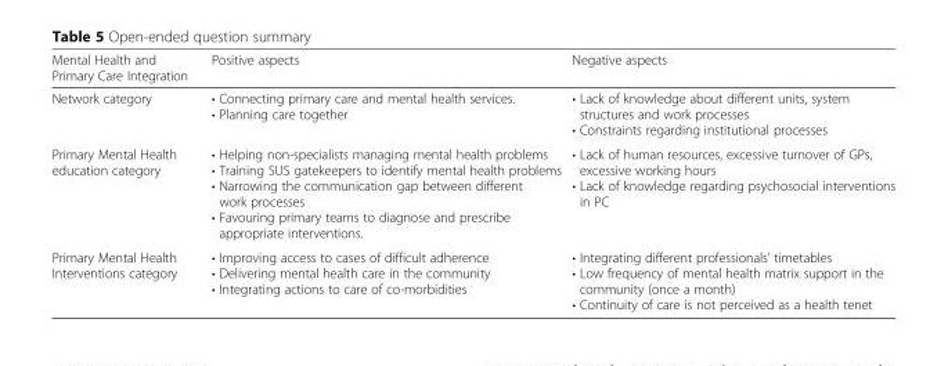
<table><thead><tr><td>Mental Health and Primary Care Integration</td><td>Positive aspects</td><td>Negative aspects</td></tr></thead><tbody><tr><td>Network category</td><td>• Connecting primary care and mental health services. • Planning care together</td><td>• Lack of knowledge about different units, system structures and work processes • Constraints regarding institutional processes</td></tr><tr><td>Primary Mental Health education category</td><td>• Helping non-specialists managing mental health problems • Training SUS gatekeepers to identify mental health problems • Narrowing the communication gap between different work processes • Favouring primary teams to diagnose and prescribe appropriate interventions.</td><td>• Lack of human resources, excessive turnover of GPs, excessive working hours • Lack of knowledge regarding psychosocial interventions in PC</td></tr><tr><td>Primary Mental Health Interventions category</td><td>• Improving access to cases of difficult adherence • Delivering mental health care in the community • Integrating actions to care of co-morbidities</td><td>• Integrating different professionals’ timetables • Low frequency of mental health matrix support in the community (once a month) • Continuity of care is not perceived as a health tenet</td></tr></tbody></table>